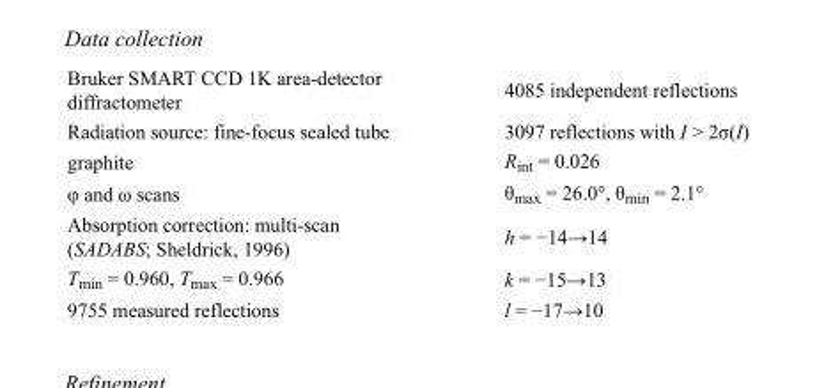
<table><tbody><tr><td>Bruker SMART CCD 1K area-detector diffractometer</td><td>4085 independent reflections</td></tr><tr><td>Radiation source: fine-focus sealed tube</td><td>3097 reflections with I &gt; 2σ(I)</td></tr><tr><td>graphite</td><td>R<sub>int</sub> = 0.026</td></tr><tr><td>φ and ω scans</td><td>θ<sub>max</sub> = 26.0°, θ<sub>min</sub> = 2.1°</td></tr><tr><td>Absorption correction: multi-scan (SADABS; Sheldrick, 1996)</td><td>h = −14→14</td></tr><tr><td>T<sub>min</sub> = 0.960, T<sub>max</sub> = 0.966</td><td>k = −15→13</td></tr><tr><td>9755 measured reflections</td><td>l = −17→10</td></tr></tbody></table>